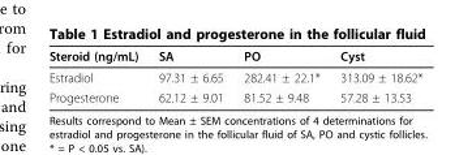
<table><thead><tr><td>Steroid (ng/mL)</td><td>SA</td><td>PO</td><td>Cyst</td></tr></thead><tbody><tr><td>Estradiol</td><td>97.31 ± 6.65</td><td>282.41 ± 22.1*</td><td>313.09 ± 18.62*</td></tr><tr><td>Progesterone</td><td>62.12 ± 9.01</td><td>81.52 ± 9.48</td><td>57.28 ± 13.53</td></tr></tbody></table>